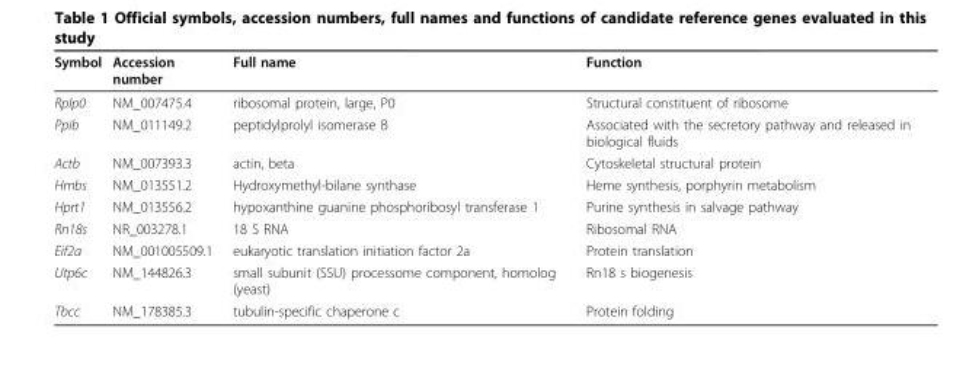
<table><thead><tr><td>Symbol</td><td>Accession number</td><td>Full name</td><td>Function</td></tr></thead><tbody><tr><td>Rplp0</td><td>NM_007475.4</td><td>ribosomal protein, large, P0</td><td>Structural constituent of ribosome</td></tr><tr><td>Ppib</td><td>NM_011149.2</td><td>peptidylprolyl isomerase B</td><td>Associated with the secretory pathway and released in biological fluids</td></tr><tr><td>Actb</td><td>NM_007393.3</td><td>actin, beta</td><td>Cytoskeletal structural protein</td></tr><tr><td>Hmbs</td><td>NM_013551.2</td><td>Hydroxymethyl-bilane synthase</td><td>Heme synthesis, porphyrin metabolism</td></tr><tr><td>Hprt1</td><td>NM_013556.2</td><td>hypoxanthine guanine phosphoribosyl transferase 1</td><td>Purine synthesis in salvage pathway</td></tr><tr><td>Rn18s</td><td>NR_003278.1</td><td>18 S RNA</td><td>Ribosomal RNA</td></tr><tr><td>Eif2a</td><td>NM_001005509.1</td><td>eukaryotic translation initiation factor 2a</td><td>Protein translation</td></tr><tr><td>Utp6c</td><td>NM_144826.3</td><td>small subunit (SSU) processome component, homolog (yeast)</td><td>Rn18 s biogenesis</td></tr><tr><td>Tbcc</td><td>NM_178385.3</td><td>tubulin-specific chaperone c</td><td>Protein folding</td></tr></tbody></table>